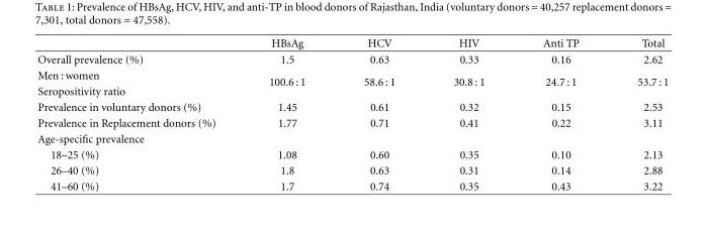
<table><thead><tr><td></td><td>HBsAg</td><td>HCV</td><td>HIV</td><td>Anti TP</td><td>Total</td></tr></thead><tbody><tr><td>Overall prevalence (%)</td><td>1.5</td><td>0.63</td><td>0.33</td><td>0.16</td><td>2.62</td></tr><tr><td>Men : women</td><td rowspan="2">100.6 : 1</td><td rowspan="2">58.6 : 1</td><td rowspan="2">30.8 : 1</td><td rowspan="2">24.7 : 1</td><td rowspan="2">53.7 : 1</td></tr><tr><td>Seropositivity ratio</td></tr><tr><td>Prevalence in voluntary donors (%)</td><td>1.45</td><td>0.61</td><td>0.32</td><td>0.15</td><td>2.53</td></tr><tr><td>Prevalence in Replacement donors (%)</td><td>1.77</td><td>0.71</td><td>0.41</td><td>0.22</td><td>3.11</td></tr><tr><td colspan="6">Age-specific prevalence</td></tr><tr><td>18–25 (%)</td><td>1.08</td><td>0.60</td><td>0.35</td><td>0.10</td><td>2.13</td></tr><tr><td>26–40 (%)</td><td>1.8</td><td>0.63</td><td>0.31</td><td>0.14</td><td>2.88</td></tr><tr><td>41–60 (%)</td><td>1.7</td><td>0.74</td><td>0.35</td><td>0.43</td><td>3.22</td></tr></tbody></table>